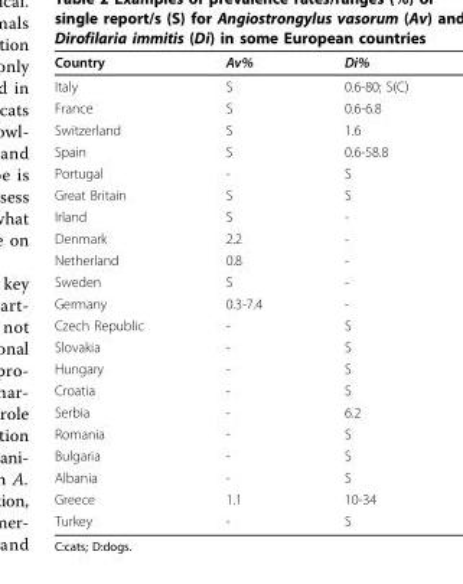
<table><thead><tr><td>Country</td><td>Av%</td><td>Di%</td></tr></thead><tbody><tr><td>Italy</td><td>S</td><td>0.6-80; S(C)</td></tr><tr><td>France</td><td>S</td><td>0.6-6.8</td></tr><tr><td>Switzerland</td><td>S</td><td>1.6</td></tr><tr><td>Spain</td><td>S</td><td>0.6-58.8</td></tr><tr><td>Portugal</td><td>-</td><td>S</td></tr><tr><td>Great Britain</td><td>S</td><td>S</td></tr><tr><td>Irland</td><td>S</td><td>-</td></tr><tr><td>Denmark</td><td>2.2</td><td>-</td></tr><tr><td>Netherland</td><td>0.8</td><td>-</td></tr><tr><td>Sweden</td><td>S</td><td>-</td></tr><tr><td>Germany</td><td>0.3-7.4</td><td>-</td></tr><tr><td>Czech Republic</td><td>-</td><td>S</td></tr><tr><td>Slovakia</td><td>-</td><td>S</td></tr><tr><td>Hungary</td><td>-</td><td>S</td></tr><tr><td>Croatia</td><td>-</td><td>S</td></tr><tr><td>Serbia</td><td>-</td><td>6.2</td></tr><tr><td>Romania</td><td>-</td><td>S</td></tr><tr><td>Bulgaria</td><td>-</td><td>S</td></tr><tr><td>Albania</td><td>-</td><td>S</td></tr><tr><td>Greece</td><td>1.1</td><td>10-34</td></tr><tr><td>Turkey</td><td>-</td><td>S</td></tr></tbody></table>